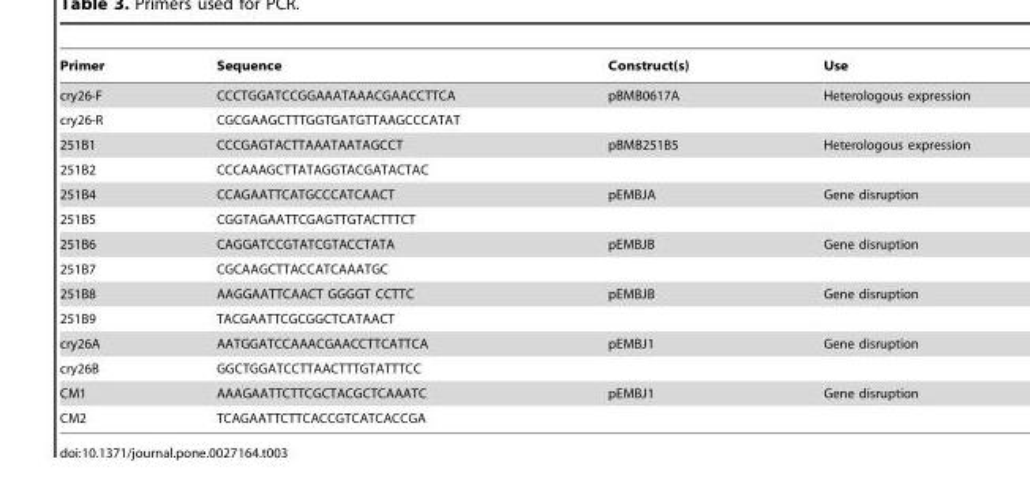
<table><thead><tr><td>Primer</td><td>Sequence</td><td>Construct(s)</td><td>Use</td></tr></thead><tbody><tr><td>cry26-F</td><td>CCCTGGATCCGGAAATAAACGAACCTTCA</td><td>pBMB0617A</td><td>Heterologous expression</td></tr><tr><td>cry26-R</td><td>CGCGAAGCTTTGGTGATGTTAAGCCCATAT</td><td></td><td></td></tr><tr><td>251B1</td><td>CCCGAGTACTTAAATAATAGCCT</td><td>pBMB251B5</td><td>Heterologous expression</td></tr><tr><td>251B2</td><td>CCCAAAGCTTATAGGTACGATACTAC</td><td></td><td></td></tr><tr><td>251B4</td><td>CCAGAATTCATGCCCATCAACT</td><td>pEMBJA</td><td>Gene disruption</td></tr><tr><td>251B5</td><td>CGGTAGAATTCGAGTTGTACTTTCT</td><td></td><td></td></tr><tr><td>251B6</td><td>CAGGATCCGTATCGTACCTATA</td><td>pEMBJB</td><td>Gene disruption</td></tr><tr><td>251B7</td><td>CGCAAGCTTACCATCAAATGC</td><td></td><td></td></tr><tr><td>251B8</td><td>AAGGAATTCAACT GGGGT CCTTC</td><td>pEMBJB</td><td>Gene disruption</td></tr><tr><td>251B9</td><td>TACGAATTCGCGGCTCATAACT</td><td></td><td></td></tr><tr><td>cry26A</td><td>AATGGATCCAAACGAACCTTCATTCA</td><td>pEMBJ1</td><td>Gene disruption</td></tr><tr><td>cry26B</td><td>GGCTGGATCCTTAACTTTGTATTTCC</td><td></td><td></td></tr><tr><td>CM1</td><td>AAAGAATTCTTCGCTACGCTCAAATC</td><td>pEMBJ1</td><td>Gene disruption</td></tr><tr><td>CM2</td><td>TCAGAATTCTTCACCGTCATCACCGA</td><td></td><td></td></tr></tbody></table>